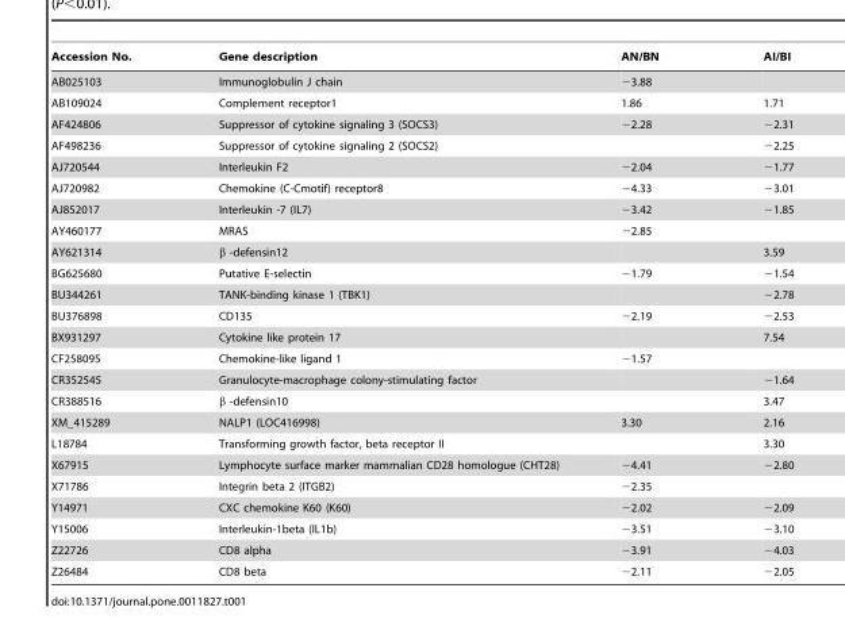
<table><thead><tr><td>Accession No.</td><td>Gene description</td><td>AN/BN</td><td>AI/BI</td></tr></thead><tbody><tr><td>AB025103</td><td>Immunoglobulin J chain</td><td>−3.88</td><td></td></tr><tr><td>AB109024</td><td>Complement receptor1</td><td>1.86</td><td>1.71</td></tr><tr><td>AF424806</td><td>Suppressor of cytokine signaling 3 (SOCS3)</td><td>−2.28</td><td>−2.31</td></tr><tr><td>AF498236</td><td>Suppressor of cytokine signaling 2 (SOCS2)</td><td></td><td>−2.25</td></tr><tr><td>AJ720544</td><td>Interleukin F2</td><td>−2.04</td><td>−1.77</td></tr><tr><td>AJ720982</td><td>Chemokine (C-Cmotif) receptor8</td><td>−4.33</td><td>−3.01</td></tr><tr><td>AJ852017</td><td>Interleukin -7 (IL7)</td><td>−3.42</td><td>−1.85</td></tr><tr><td>AY460177</td><td>MRAS</td><td>−2.85</td><td></td></tr><tr><td>AY621314</td><td>β -defensin12</td><td></td><td>3.59</td></tr><tr><td>BG625680</td><td>Putative E-selectin</td><td>−1.79</td><td>−1.54</td></tr><tr><td>BU344261</td><td>TANK-binding kinase 1 (TBK1)</td><td></td><td>−2.78</td></tr><tr><td>BU376898</td><td>CD135</td><td>−2.19</td><td>−2.53</td></tr><tr><td>BX931297</td><td>Cytokine like protein 17</td><td></td><td>7.54</td></tr><tr><td>CF258095</td><td>Chemokine-like ligand 1</td><td>−1.57</td><td></td></tr><tr><td>CR352545</td><td>Granulocyte-macrophage colony-stimulating factor</td><td></td><td>−1.64</td></tr><tr><td>CR388516</td><td>β -defensin10</td><td></td><td>3.47</td></tr><tr><td>XM_415289</td><td>NALP1 (LOC416998)</td><td>3.30</td><td>2.16</td></tr><tr><td>L18784</td><td>Transforming growth factor, beta receptor II</td><td></td><td>3.30</td></tr><tr><td>X67915</td><td>Lymphocyte surface marker mammalian CD28 homologue (CHT28)</td><td>−4.41</td><td>−2.80</td></tr><tr><td>X71786</td><td>Integrin beta 2 (ITGB2)</td><td>−2.35</td><td></td></tr><tr><td>Y14971</td><td>CXC chemokine K60 (K60)</td><td>−2.02</td><td>−2.09</td></tr><tr><td>Y15006</td><td>Interleukin-1beta (IL1b)</td><td>−3.51</td><td>−3.10</td></tr><tr><td>Z22726</td><td>CD8 alpha</td><td>−3.91</td><td>−4.03</td></tr><tr><td>Z26484</td><td>CD8 beta</td><td>−2.11</td><td>−2.05</td></tr></tbody></table>